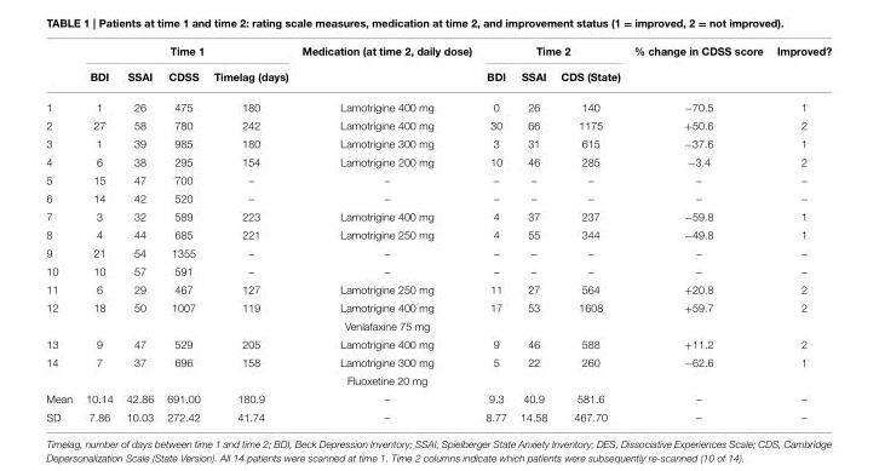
<table><thead><tr><td rowspan="2"></td><td colspan="4">Time 1</td><td rowspan="2">Medication (at time 2, daily dose)</td><td colspan="3">Time 2</td><td rowspan="2">% change in CDSS score</td><td rowspan="2">Improved?</td></tr><tr><td>BDI</td><td>SSAI</td><td>CDSS</td><td>Timelag (days)</td><td>BDI</td><td>SSAI</td><td>CDS (State)</td></tr></thead><tbody><tr><td>1</td><td>1</td><td>26</td><td>475</td><td>180</td><td>Lamotrigine 400 mg</td><td>0</td><td>26</td><td>140</td><td>−70.5</td><td>1</td></tr><tr><td>2</td><td>27</td><td>58</td><td>780</td><td>242</td><td>Lamotrigine 400 mg</td><td>30</td><td>66</td><td>1175</td><td>+50.6</td><td>2</td></tr><tr><td>3</td><td>1</td><td>39</td><td>985</td><td>180</td><td>Lamotrigine 300 mg</td><td>3</td><td>31</td><td>615</td><td>−37.6</td><td>1</td></tr><tr><td>4</td><td>6</td><td>38</td><td>295</td><td>154</td><td>Lamotrigine 200 mg</td><td>10</td><td>46</td><td>285</td><td>−3.4</td><td>2</td></tr><tr><td>5</td><td>15</td><td>47</td><td>700</td><td>–</td><td>–</td><td>–</td><td>–</td><td>–</td><td>–</td><td>–</td></tr><tr><td>6</td><td>14</td><td>42</td><td>520</td><td>–</td><td>–</td><td>–</td><td>–</td><td>–</td><td>–</td><td>–</td></tr><tr><td>7</td><td>3</td><td>32</td><td>589</td><td>223</td><td>Lamotrigine 400 mg</td><td>4</td><td>37</td><td>237</td><td>−59.8</td><td>1</td></tr><tr><td>8</td><td>4</td><td>44</td><td>685</td><td>221</td><td>Lamotrigine 250 mg</td><td>4</td><td>55</td><td>344</td><td>−49.8</td><td>1</td></tr><tr><td>9</td><td>21</td><td>54</td><td>1355</td><td>–</td><td>–</td><td>–</td><td>–</td><td>–</td><td>–</td><td>–</td></tr><tr><td>10</td><td>10</td><td>57</td><td>591</td><td>–</td><td>–</td><td>–</td><td>–</td><td>–</td><td>–</td><td>–</td></tr><tr><td>11</td><td>6</td><td>29</td><td>467</td><td>127</td><td>Lamotrigine 250 mg</td><td>11</td><td>27</td><td>564</td><td>+20.8</td><td>2</td></tr><tr><td rowspan="2">12</td><td>18</td><td>50</td><td>1007</td><td>119</td><td>Lamotrigine 400 mg</td><td>17</td><td>53</td><td>1608</td><td>+59.7</td><td>2</td></tr><tr><td></td><td></td><td></td><td></td><td>Venlafaxine 75 mg</td><td></td><td></td><td></td><td></td><td></td></tr><tr><td>13</td><td>9</td><td>47</td><td>529</td><td>205</td><td>Lamotrigine 400 mg</td><td>9</td><td>46</td><td>588</td><td>+11.2</td><td>2</td></tr><tr><td rowspan="2">14</td><td>7</td><td>37</td><td>696</td><td>158</td><td>Lamotrigine 300 mg</td><td>5</td><td>22</td><td>260</td><td>−62.6</td><td>1</td></tr><tr><td></td><td></td><td></td><td></td><td>Fluoxetine 20 mg</td><td></td><td></td><td></td><td></td><td></td></tr><tr><td>Mean</td><td>10.14</td><td>42.86</td><td>691.00</td><td>180.9</td><td>–</td><td>9.3</td><td>40.9</td><td>581.6</td><td>–</td><td>–</td></tr><tr><td>SD</td><td>7.86</td><td>10.03</td><td>272.42</td><td>41.74</td><td>–</td><td>8.77</td><td>14.58</td><td>467.70</td><td>–</td><td>–</td></tr></tbody></table>